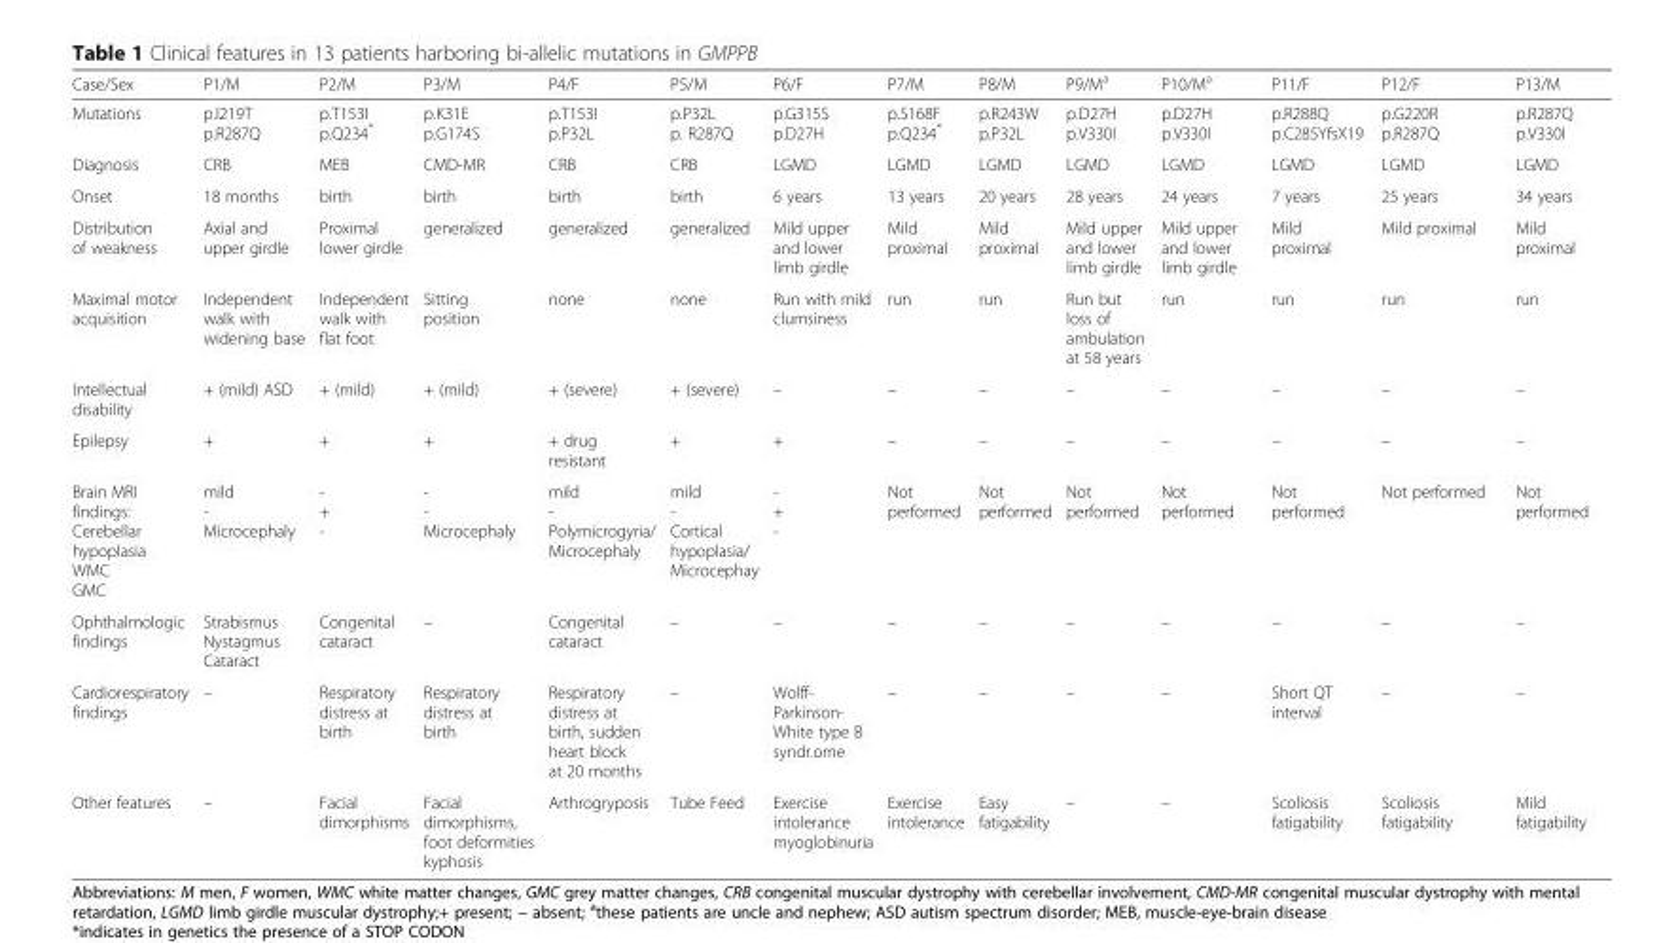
<table><thead><tr><td>Case/Sex</td><td>P1/M</td><td>P2/M</td><td>P3/M</td><td>P4/F</td><td>P5/M</td><td>P6/F</td><td>P7/M</td><td>P8/M</td><td>P9/M<sup>a</sup></td><td>P10/M<sup>a</sup></td><td>P11/F</td><td>P12/F</td><td>P13/M</td></tr></thead><tbody><tr><td>Mutations</td><td>p.I219T p.R287Q</td><td>p.T153I p.Q234*</td><td>p.K31E p.G174S</td><td>p.T153I p.P32L</td><td>p.P32L p. R287Q</td><td>p.G315S p.D27H</td><td>p.S168F p.Q234*</td><td>p.R243W p.P32L</td><td>p.D27H p.V330I</td><td>p.D27H p.V330I</td><td>p.R288Q p.C285YfsX19</td><td>p.G220R p.R287Q</td><td>p.R287Q p.V330I</td></tr><tr><td>Diagnosis</td><td>CRB</td><td>MEB</td><td>CMD-MR</td><td>CRB</td><td>CRB</td><td>LGMD</td><td>LGMD</td><td>LGMD</td><td>LGMD</td><td>LGMD</td><td>LGMD</td><td>LGMD</td><td>LGMD</td></tr><tr><td>Onset</td><td>18 months</td><td>birth</td><td>birth</td><td>birth</td><td>birth</td><td>6 years</td><td>13 years</td><td>20 years</td><td>28 years</td><td>24 years</td><td>7 years</td><td>25 years</td><td>34 years</td></tr><tr><td>Distribution of weakness</td><td>Axial and upper girdle</td><td>Proximal lower girdle</td><td>generalized</td><td>generalized</td><td>generalized</td><td>Mild upper and lower limb girdle</td><td>Mild proximal</td><td>Mild proximal</td><td>Mild upper and lower limb girdle</td><td>Mild upper and lower limb girdle</td><td>Mild proximal</td><td>Mild proximal</td><td>Mild proximal</td></tr><tr><td>Maximal motor acquisition</td><td>Independent walk with widening base</td><td>Independent walk with flat foot</td><td>Sitting position</td><td>none</td><td>none</td><td>Run with mild clumsiness</td><td>run</td><td>run</td><td>Run but loss of ambulation at 58 years</td><td>run</td><td>run</td><td>run</td><td>run</td></tr><tr><td>Intellectual disability</td><td>+ (mild) ASD</td><td>+ (mild)</td><td>+ (mild)</td><td>+ (severe)</td><td>+ (severe)</td><td>–</td><td>–</td><td>–</td><td>–</td><td>–</td><td>–</td><td>–</td><td>–</td></tr><tr><td>Epilepsy</td><td>+</td><td>+</td><td>+</td><td>+ drug resistant</td><td>+</td><td>+</td><td>–</td><td>–</td><td>–</td><td>–</td><td>–</td><td>–</td><td>–</td></tr><tr><td>Brain MRI findings: Cerebellar hypoplasia WMC GMC</td><td>mild - Microcephaly</td><td>- + -</td><td>- - Microcephaly</td><td>mild - Polymicrogyria/ Microcephaly</td><td>mild - Cortical hypoplasia/ Microcephay</td><td>- + -</td><td>Not performed</td><td>Not performed</td><td>Not performed</td><td>Not performed</td><td>Not performed</td><td>Not performed</td><td>Not performed</td></tr><tr><td>Ophthalmologic findings</td><td>Strabismus Nystagmus Cataract</td><td>Congenital cataract</td><td>–</td><td>Congenital cataract</td><td>–</td><td>–</td><td>–</td><td>–</td><td>–</td><td>–</td><td>–</td><td>–</td><td>–</td></tr><tr><td>Cardiorespiratory findings</td><td>–</td><td>Respiratory distress at birth</td><td>Respiratory distress at birth</td><td>Respiratory distress at birth, sudden heart block at 20 months</td><td>–</td><td>Wolff- Parkinson- White type B syndr.ome</td><td>–</td><td>–</td><td>–</td><td>–</td><td>Short QT interval</td><td>–</td><td>–</td></tr><tr><td>Other features</td><td>–</td><td>Facial dimorphisms</td><td>Facial dimorphisms, foot deformities kyphosis</td><td>Arthrogryposis</td><td>Tube Feed</td><td>Exercise intolerance myoglobinuria</td><td>Exercise intolerance</td><td>Easy fatigability</td><td>–</td><td>–</td><td>Scoliosis fatigability</td><td>Scoliosis fatigability</td><td>Mild fatigability</td></tr></tbody></table>